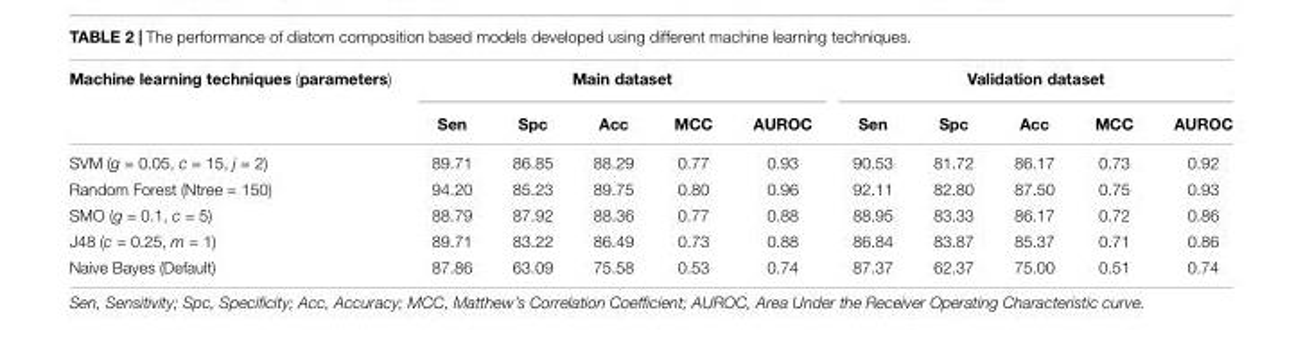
<table><thead><tr><td rowspan="2">Machine learning techniques (parameters)</td><td colspan="5">Main dataset</td><td colspan="5">Validation dataset</td></tr><tr><td>Sen</td><td>Spc</td><td>Acc</td><td>MCC</td><td>AUROC</td><td>Sen</td><td>Spc</td><td>Acc</td><td>MCC</td><td>AUROC</td></tr></thead><tbody><tr><td>SVM (g = 0.05, c = 15, j = 2)</td><td>89.71</td><td>86.85</td><td>88.29</td><td>0.77</td><td>0.93</td><td>90.53</td><td>81.72</td><td>86.17</td><td>0.73</td><td>0.92</td></tr><tr><td>Random Forest (Ntree = 150)</td><td>94.20</td><td>85.23</td><td>89.75</td><td>0.80</td><td>0.96</td><td>92.11</td><td>82.80</td><td>87.50</td><td>0.75</td><td>0.93</td></tr><tr><td>SMO (g = 0.1, c = 5)</td><td>88.79</td><td>87.92</td><td>88.36</td><td>0.77</td><td>0.88</td><td>88.95</td><td>83.33</td><td>86.17</td><td>0.72</td><td>0.86</td></tr><tr><td>J48 (c = 0.25, m = 1)</td><td>89.71</td><td>83.22</td><td>86.49</td><td>0.73</td><td>0.88</td><td>86.84</td><td>83.87</td><td>85.37</td><td>0.71</td><td>0.86</td></tr><tr><td>Naive Bayes (Default)</td><td>87.86</td><td>63.09</td><td>75.58</td><td>0.53</td><td>0.74</td><td>87.37</td><td>62.37</td><td>75.00</td><td>0.51</td><td>0.74</td></tr></tbody></table>